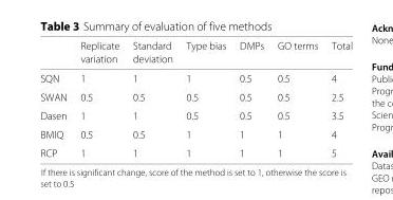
<table><thead><tr><td rowspan="2"></td><td rowspan="2">Replicate variation</td><td rowspan="2">Standard deviation</td><td rowspan="2">Type bias</td><td rowspan="2">DMPs</td><td rowspan="2">GO terms</td><td rowspan="2">Total</td></tr><tr></tr></thead><tbody><tr><td>SQN</td><td>1</td><td>1</td><td>1</td><td>0.5</td><td>0.5</td><td>4</td></tr><tr><td>SWAN</td><td>0.5</td><td>0.5</td><td>0.5</td><td>0.5</td><td>0.5</td><td>2.5</td></tr><tr><td>Dasen</td><td>1</td><td>1</td><td>0.5</td><td>0.5</td><td>0.5</td><td>3.5</td></tr><tr><td>BMIQ</td><td>0.5</td><td>0.5</td><td>1</td><td>1</td><td>1</td><td>4</td></tr><tr><td>RCP</td><td>1</td><td>1</td><td>1</td><td>1</td><td>1</td><td>5</td></tr></tbody></table>